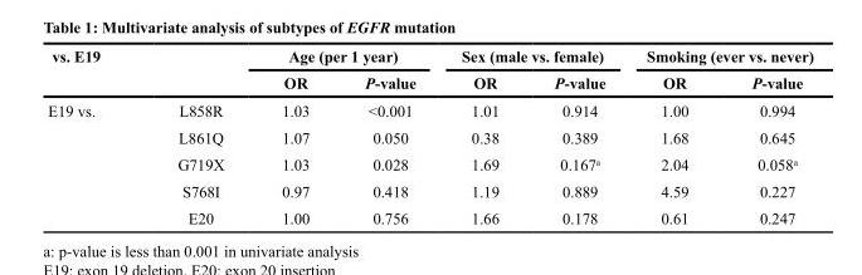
<table><thead><tr><td rowspan="2">vs. E19</td><td rowspan="2"></td><td colspan="2">Age (per 1 year)</td><td colspan="2">Sex (male vs. female)</td><td colspan="2">Smoking (ever vs. never)</td></tr><tr><td>OR</td><td>P-value</td><td>OR</td><td>P-value</td><td>OR</td><td>P-value</td></tr></thead><tbody><tr><td rowspan="5">E19 vs.</td><td>L858R</td><td>1.03</td><td>&lt;0.001</td><td>1.01</td><td>0.914</td><td>1.00</td><td>0.994</td></tr><tr><td>L861Q</td><td>1.07</td><td>0.050</td><td>0.38</td><td>0.389</td><td>1.68</td><td>0.645</td></tr><tr><td>G719X</td><td>1.03</td><td>0.028</td><td>1.69</td><td>0.167<sup>a</sup></td><td>2.04</td><td>0.058<sup>a</sup></td></tr><tr><td>S768I</td><td>0.97</td><td>0.418</td><td>1.19</td><td>0.889</td><td>4.59</td><td>0.227</td></tr><tr><td>E20</td><td>1.00</td><td>0.756</td><td>1.66</td><td>0.178</td><td>0.61</td><td>0.247</td></tr></tbody></table>